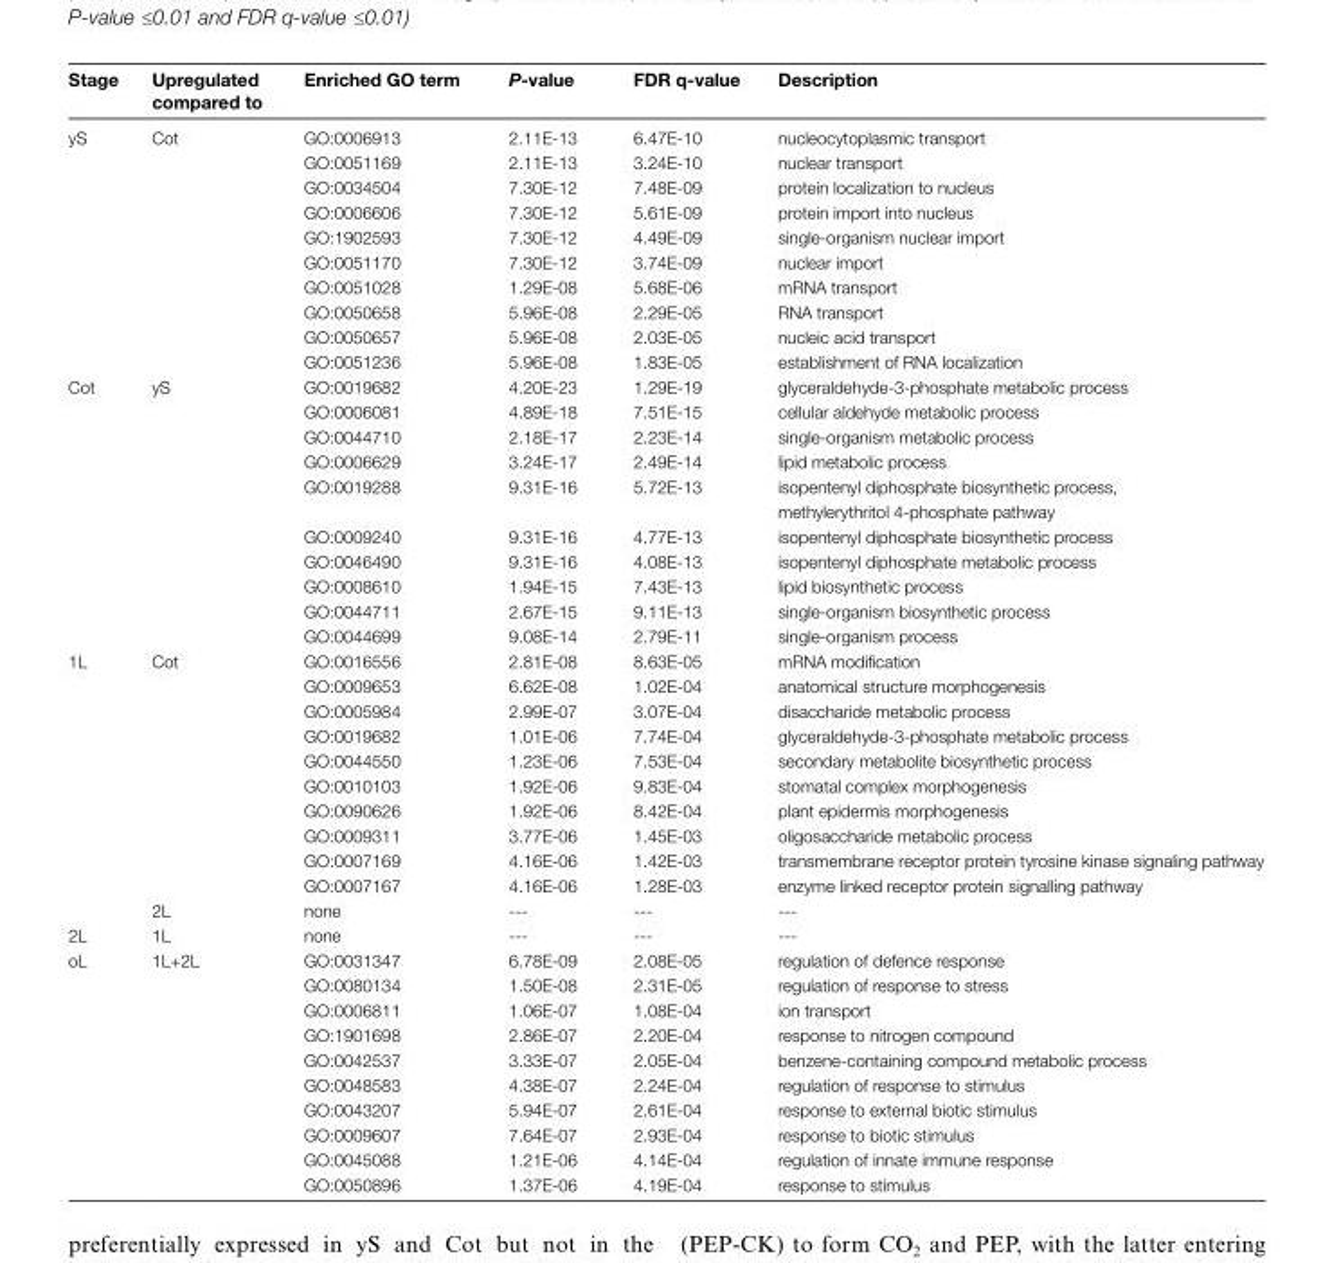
<table><thead><tr><td>Stage</td><td>Upregulated compared to</td><td>Enriched GO term</td><td>P-value</td><td>FDR q-value</td><td>Description</td></tr></thead><tbody><tr><td rowspan="10">yS</td><td>Cot</td><td>GO:0006913</td><td>2.11E-13</td><td>6.47E-10</td><td>nucleocytoplasmic transport</td></tr><tr><td></td><td>GO:0051169</td><td>2.11E-13</td><td>3.24E-10</td><td>nuclear transport</td></tr><tr><td></td><td>GO:0034504</td><td>7.30E-12</td><td>7.48E-09</td><td>protein localization to nucleus</td></tr><tr><td></td><td>GO:0006606</td><td>7.30E-12</td><td>5.61E-09</td><td>protein import into nucleus</td></tr><tr><td></td><td>GO:1902593</td><td>7.30E-12</td><td>4.49E-09</td><td>single-organism nuclear import</td></tr><tr><td></td><td>GO:0051170</td><td>7.30E-12</td><td>3.74E-09</td><td>nuclear import</td></tr><tr><td></td><td>GO:0051028</td><td>1.29E-08</td><td>5.68E-06</td><td>mRNA transport</td></tr><tr><td></td><td>GO:0050658</td><td>5.96E-08</td><td>2.29E-05</td><td>RNA transport</td></tr><tr><td></td><td>GO:0050657</td><td>5.96E-08</td><td>2.03E-05</td><td>nucleic acid transport</td></tr><tr><td></td><td>GO:0051236</td><td>5.96E-08</td><td>1.83E-05</td><td>establishment of RNA localization</td></tr><tr><td rowspan="10">Cot</td><td>yS</td><td>GO:0019682</td><td>4.20E-23</td><td>1.29E-19</td><td>glyceraldehyde-3-phosphate metabolic process</td></tr><tr><td></td><td>GO:0006081</td><td>4.89E-18</td><td>7.51E-15</td><td>cellular aldehyde metabolic process</td></tr><tr><td></td><td>GO:0044710</td><td>2.18E-17</td><td>2.23E-14</td><td>single-organism metabolic process</td></tr><tr><td></td><td>GO:0006629</td><td>3.24E-17</td><td>2.49E-14</td><td>lipid metabolic process</td></tr><tr><td></td><td>GO:0019288</td><td>9.31E-16</td><td>5.72E-13</td><td>isopentenyl diphosphate biosynthetic process, methylerythritol 4-phosphate pathway</td></tr><tr><td></td><td>GO:0009240</td><td>9.31E-16</td><td>4.77E-13</td><td>isopentenyl diphosphate biosynthetic process</td></tr><tr><td></td><td>GO:0046490</td><td>9.31E-16</td><td>4.08E-13</td><td>isopentenyl diphosphate metabolic process</td></tr><tr><td></td><td>GO:0008610</td><td>1.94E-15</td><td>7.43E-13</td><td>lipid biosynthetic process</td></tr><tr><td></td><td>GO:0044711</td><td>2.67E-15</td><td>9.11E-13</td><td>single-organism biosynthetic process</td></tr><tr><td></td><td>GO:0044699</td><td>9.08E-14</td><td>2.79E-11</td><td>single-organism process</td></tr><tr><td rowspan="11">1L</td><td>Cot</td><td>GO:0016556</td><td>2.81E-08</td><td>8.63E-05</td><td>mRNA modification</td></tr><tr><td></td><td>GO:0009653</td><td>6.62E-08</td><td>1.02E-04</td><td>anatomical structure morphogenesis</td></tr><tr><td></td><td>GO:0005984</td><td>2.99E-07</td><td>3.07E-04</td><td>disaccharide metabolic process</td></tr><tr><td></td><td>GO:0019682</td><td>1.01E-06</td><td>7.74E-04</td><td>glyceraldehyde-3-phosphate metabolic process</td></tr><tr><td></td><td>GO:0044550</td><td>1.23E-06</td><td>7.53E-04</td><td>secondary metabolite biosynthetic process</td></tr><tr><td></td><td>GO:0010103</td><td>1.92E-06</td><td>9.83E-04</td><td>stomatal complex morphogenesis</td></tr><tr><td></td><td>GO:0090626</td><td>1.92E-06</td><td>8.42E-04</td><td>plant epidermis morphogenesis</td></tr><tr><td></td><td>GO:0009311</td><td>3.77E-06</td><td>1.45E-03</td><td>oligosaccharide metabolic process</td></tr><tr><td></td><td>GO:0007169</td><td>4.16E-06</td><td>1.42E-03</td><td>transmembrane receptor protein tyrosine kinase signaling pathway</td></tr><tr><td></td><td>GO:0007167</td><td>4.16E-06</td><td>1.28E-03</td><td>enzyme linked receptor protein signalling pathway</td></tr><tr><td>2L</td><td>none</td><td>---</td><td>---</td><td>---</td></tr><tr><td>2L</td><td>1L</td><td>none</td><td>---</td><td>---</td><td>---</td></tr><tr><td rowspan="10">oL</td><td>1L+2L</td><td>GO:0031347</td><td>6.78E-09</td><td>2.08E-05</td><td>regulation of defence response</td></tr><tr><td></td><td>GO:0080134</td><td>1.50E-08</td><td>2.31E-05</td><td>regulation of response to stress</td></tr><tr><td></td><td>GO:0006811</td><td>1.06E-07</td><td>1.08E-04</td><td>ion transport</td></tr><tr><td></td><td>GO:1901698</td><td>2.86E-07</td><td>2.20E-04</td><td>response to nitrogen compound</td></tr><tr><td></td><td>GO:0042537</td><td>3.33E-07</td><td>2.05E-04</td><td>benzene-containing compound metabolic process</td></tr><tr><td></td><td>GO:0048583</td><td>4.38E-07</td><td>2.24E-04</td><td>regulation of response to stimulus</td></tr><tr><td></td><td>GO:0043207</td><td>5.94E-07</td><td>2.61E-04</td><td>response to external biotic stimulus</td></tr><tr><td></td><td>GO:0009607</td><td>7.64E-07</td><td>2.93E-04</td><td>response to biotic stimulus</td></tr><tr><td></td><td>GO:0045088</td><td>1.21E-06</td><td>4.14E-04</td><td>regulation of innate immune response</td></tr><tr><td></td><td>GO:0050896</td><td>1.37E-06</td><td>4.19E-04</td><td>response to stimulus</td></tr></tbody></table>